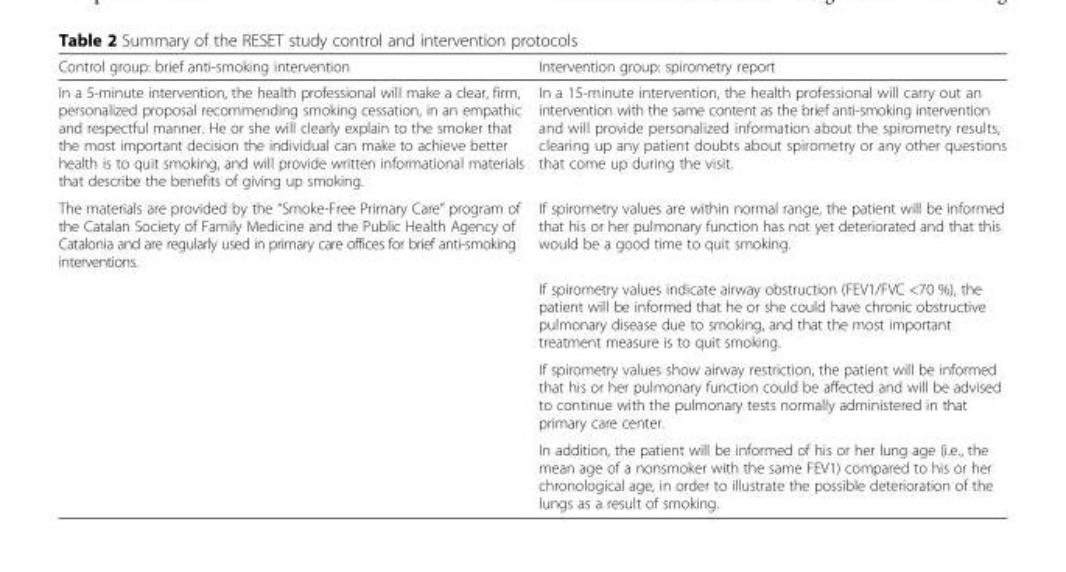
<table><thead><tr><td>Control group: brief anti-smoking intervention</td><td>Intervention group: spirometry report</td></tr></thead><tbody><tr><td>In a 5-minute intervention, the health professional will make a clear, firm, personalized proposal recommending smoking cessation, in an empathic and respectful manner. He or she will clearly explain to the smoker that the most important decision the individual can make to achieve better health is to quit smoking, and will provide written informational materials that describe the benefits of giving up smoking.</td><td>In a 15-minute intervention, the health professional will carry out an intervention with the same content as the brief anti-smoking intervention and will provide personalized information about the spirometry results, clearing up any patient doubts about spirometry or any other questions that come up during the visit.</td></tr><tr><td rowspan="4">The materials are provided by the “Smoke-Free Primary Care” program of the Catalan Society of Family Medicine and the Public Health Agency of Catalonia and are regularly used in primary care offices for brief anti-smoking interventions.</td><td>If spirometry values are within normal range, the patient will be informed that his or her pulmonary function has not yet deteriorated and that this would be a good time to quit smoking.</td></tr><tr><td>If spirometry values indicate airway obstruction (FEV1/FVC &lt;70 %), the patient will be informed that he or she could have chronic obstructive pulmonary disease due to smoking, and that the most important treatment measure is to quit smoking.</td></tr><tr><td>If spirometry values show airway restriction, the patient will be informed that his or her pulmonary function could be affected and will be advised to continue with the pulmonary tests normally administered in that primary care center.</td></tr><tr><td>In addition, the patient will be informed of his or her lung age (i.e., the mean age of a nonsmoker with the same FEV1) compared to his or her chronological age, in order to illustrate the possible deterioration of the lungs as a result of smoking.</td></tr></tbody></table>